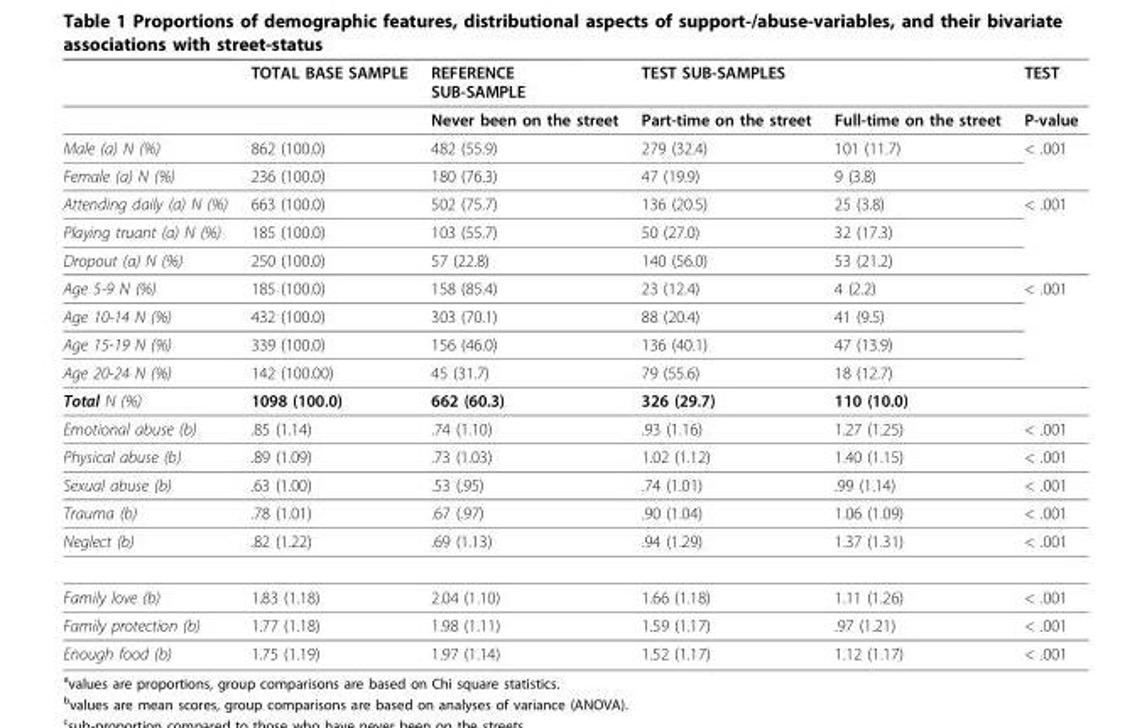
<table><thead><tr><td rowspan="2"></td><td rowspan="2">TOTAL BASE SAMPLE</td><td rowspan="2">REFERENCE SUB-SAMPLE Never been on the street</td><td colspan="2">TEST SUB-SAMPLES</td><td rowspan="2">TEST P-value</td></tr><tr><td>Part-time on the street</td><td>Full-time on the street</td></tr></thead><tbody><tr><td>Male (a) N (%)</td><td>862 (100.0)</td><td>482 (55.9)</td><td>279 (32.4)</td><td>101 (11.7)</td><td>&lt; .001</td></tr><tr><td>Female (a) N (%)</td><td>236 (100.0)</td><td>180 (76.3)</td><td>47 (19.9)</td><td>9 (3.8)</td><td></td></tr><tr><td>Attending daily (a) N (%)</td><td>663 (100.0)</td><td>502 (75.7)</td><td>136 (20.5)</td><td>25 (3.8)</td><td>&lt; .001</td></tr><tr><td>Playing truant (a) N (%)</td><td>185 (100.0)</td><td>103 (55.7)</td><td>50 (27.0)</td><td>32 (17.3)</td><td></td></tr><tr><td>Dropout (a) N (%)</td><td>250 (100.0)</td><td>57 (22.8)</td><td>140 (56.0)</td><td>53 (21.2)</td><td></td></tr><tr><td>Age 5-9 N (%)</td><td>185 (100.0)</td><td>158 (85.4)</td><td>23 (12.4)</td><td>4 (2.2)</td><td>&lt; .001</td></tr><tr><td>Age 10-14 N (%)</td><td>432 (100.0)</td><td>303 (70.1)</td><td>88 (20.4)</td><td>41 (9.5)</td><td></td></tr><tr><td>Age 15-19 N (%)</td><td>339 (100.0)</td><td>156 (46.0)</td><td>136 (40.1)</td><td>47 (13.9)</td><td></td></tr><tr><td>Age 20-24 N (%)</td><td>142 (100.00)</td><td>45 (31.7)</td><td>79 (55.6)</td><td>18 (12.7)</td><td></td></tr><tr><td>Total N (%)</td><td>1098 (100.0)</td><td>662 (60.3)</td><td>326 (29.7)</td><td>110 (10.0)</td><td></td></tr><tr><td>Emotional abuse (b)</td><td>.85 (1.14)</td><td>.74 (1.10)</td><td>.93 (1.16)</td><td>1.27 (1.25)</td><td>&lt; .001</td></tr><tr><td>Physical abuse (b)</td><td>.89 (1.09)</td><td>.73 (1.03)</td><td>1.02 (1.12)</td><td>1.40 (1.15)</td><td>&lt; .001</td></tr><tr><td>Sexual abuse (b)</td><td>.63 (1.00)</td><td>.53 (.95)</td><td>.74 (1.01)</td><td>.99 (1.14)</td><td>&lt; .001</td></tr><tr><td>Trauma (b)</td><td>.78 (1.01)</td><td>.67 (.97)</td><td>.90 (1.04)</td><td>1.06 (1.09)</td><td>&lt; .001</td></tr><tr><td>Neglect (b)</td><td>.82 (1.22)</td><td>.69 (1.13)</td><td>.94 (1.29)</td><td>1.37 (1.31)</td><td>&lt; .001</td></tr><tr><td>Family love (b)</td><td>1.83 (1.18)</td><td>2.04 (1.10)</td><td>1.66 (1.18)</td><td>1.11 (1.26)</td><td>&lt; .001</td></tr><tr><td>Family protection (b)</td><td>1.77 (1.18)</td><td>1.98 (1.11)</td><td>1.59 (1.17)</td><td>.97 (1.21)</td><td>&lt; .001</td></tr><tr><td>Enough food (b)</td><td>1.75 (1.19)</td><td>1.97 (1.14)</td><td>1.52 (1.17)</td><td>1.12 (1.17)</td><td>&lt; .001</td></tr></tbody></table>